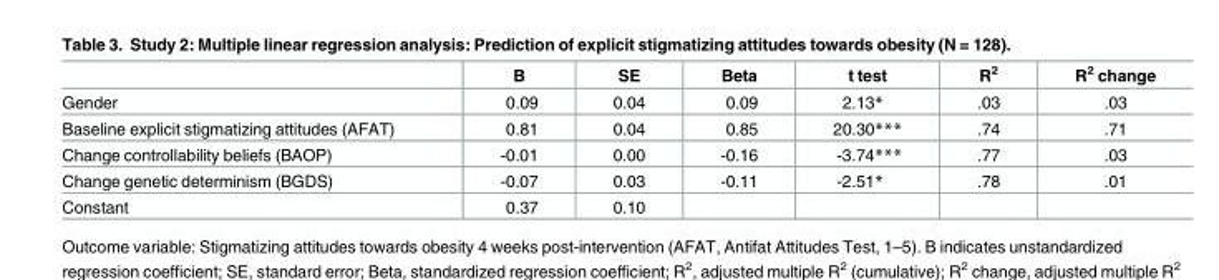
<table><thead><tr><td></td><td>B</td><td>SE</td><td>Beta</td><td>t test</td><td>R<sup>2</sup></td><td>R<sup>2</sup> change</td></tr></thead><tbody><tr><td>Gender</td><td>0.09</td><td>0.04</td><td>0.09</td><td>2.13*</td><td>.03</td><td>.03</td></tr><tr><td>Baseline explicit stigmatizing attitudes (AFAT)</td><td>0.81</td><td>0.04</td><td>0.85</td><td>20.30***</td><td>.74</td><td>.71</td></tr><tr><td>Change controllability beliefs (BAOP)</td><td>-0.01</td><td>0.00</td><td>-0.16</td><td>-3.74***</td><td>.77</td><td>.03</td></tr><tr><td>Change genetic determinism (BGDS)</td><td>-0.07</td><td>0.03</td><td>-0.11</td><td>-2.51*</td><td>.78</td><td>.01</td></tr><tr><td>Constant</td><td>0.37</td><td>0.10</td><td></td><td></td><td></td><td></td></tr></tbody></table>